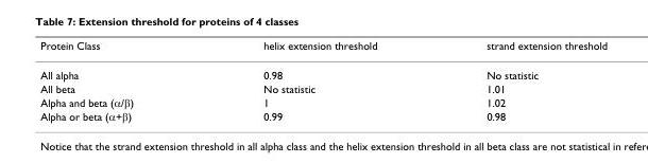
<table><thead><tr><td>Protein Class</td><td>helix extension threshold</td><td>strand extension threshold</td></tr></thead><tbody><tr><td>All alpha</td><td>0.98</td><td>No statistic</td></tr><tr><td>All beta</td><td>No statistic</td><td>1.01</td></tr><tr><td>Alpha and beta (α/β)</td><td>1</td><td>1.02</td></tr><tr><td>Alpha or beta (α+β)</td><td>0.99</td><td>0.98</td></tr></tbody></table>